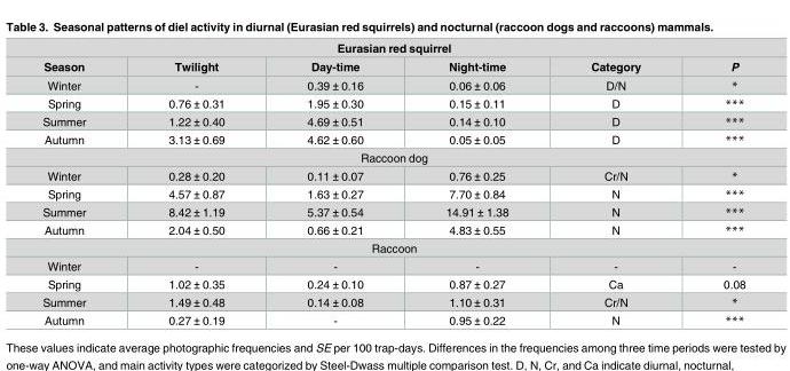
<table><thead><tr><td colspan="6">Eurasian red squirrel</td></tr><tr><td>Season</td><td>Twilight</td><td>Day-time</td><td>Night-time</td><td>Category</td><td>P</td></tr></thead><tbody><tr><td>Winter</td><td>-</td><td>0.39 ± 0.16</td><td>0.06 ± 0.06</td><td>D/N</td><td>*</td></tr><tr><td>Spring</td><td>0.76 ± 0.31</td><td>1.95 ± 0.30</td><td>0.15 ± 0.11</td><td>D</td><td>***</td></tr><tr><td>Summer</td><td>1.22 ± 0.40</td><td>4.69 ± 0.51</td><td>0.14 ± 0.10</td><td>D</td><td>***</td></tr><tr><td>Autumn</td><td>3.13 ± 0.69</td><td>4.62 ± 0.60</td><td>0.05 ± 0.05</td><td>D</td><td>***</td></tr><tr><td colspan="6">Raccoon dog</td></tr><tr><td>Winter</td><td>0.28 ± 0.20</td><td>0.11 ± 0.07</td><td>0.76 ± 0.25</td><td>Cr/N</td><td>*</td></tr><tr><td>Spring</td><td>4.57 ± 0.87</td><td>1.63 ± 0.27</td><td>7.70 ± 0.84</td><td>N</td><td>***</td></tr><tr><td>Summer</td><td>8.42 ± 1.19</td><td>5.37 ± 0.54</td><td>14.91 ± 1.38</td><td>N</td><td>***</td></tr><tr><td>Autumn</td><td>2.04 ± 0.50</td><td>0.66 ± 0.21</td><td>4.83 ± 0.55</td><td>N</td><td>***</td></tr><tr><td colspan="6">Raccoon</td></tr><tr><td>Winter</td><td>-</td><td>-</td><td>-</td><td>-</td><td>-</td></tr><tr><td>Spring</td><td>1.02 ± 0.35</td><td>0.24 ± 0.10</td><td>0.87 ± 0.27</td><td>Ca</td><td>0.08</td></tr><tr><td>Summer</td><td>1.49 ± 0.48</td><td>0.14 ± 0.08</td><td>1.10 ± 0.31</td><td>Cr/N</td><td>*</td></tr><tr><td>Autumn</td><td>0.27 ± 0.19</td><td>-</td><td>0.95 ± 0.22</td><td>N</td><td>***</td></tr></tbody></table>